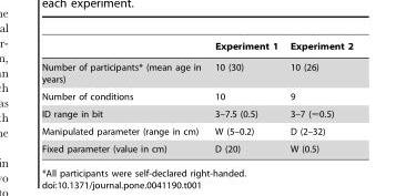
<table><thead><tr><td></td><td>Experiment 1</td><td>Experiment 2</td></tr></thead><tbody><tr><td>Number of participants* (mean age in years)</td><td>10 (30)</td><td>10 (26)</td></tr><tr><td>Number of conditions</td><td>10</td><td>9</td></tr><tr><td>ID range in bit</td><td>3–7.5 (0.5)</td><td>3–7 (&lt;0.5)</td></tr><tr><td>Manipulated parameter (range in cm)</td><td>W (5–0.2)</td><td>D (2–32)</td></tr><tr><td>Fixed parameter (value in cm)</td><td>D (20)</td><td>W (0.5)</td></tr></tbody></table>